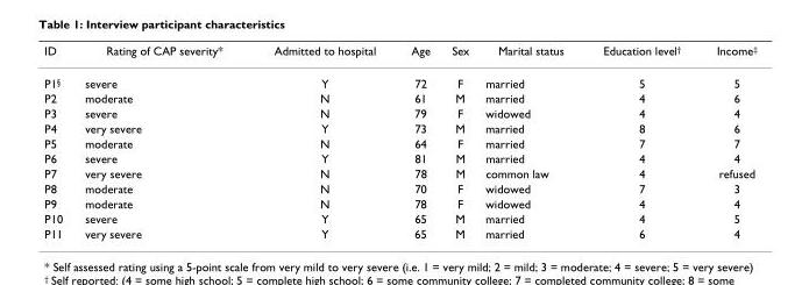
<table><thead><tr><td>ID</td><td>Rating of CAP severity*</td><td>Admitted to hospital</td><td>Age</td><td>Sex</td><td>Marital status</td><td>Education level<sup>†</sup></td><td>Income<sup>‡</sup></td></tr></thead><tbody><tr><td>P1<sup>§</sup></td><td>severe</td><td>Y</td><td>72</td><td>F</td><td>married</td><td>5</td><td>5</td></tr><tr><td>P2</td><td>moderate</td><td>N</td><td>61</td><td>M</td><td>married</td><td>4</td><td>6</td></tr><tr><td>P3</td><td>severe</td><td>N</td><td>79</td><td>F</td><td>widowed</td><td>4</td><td>4</td></tr><tr><td>P4</td><td>very severe</td><td>Y</td><td>73</td><td>M</td><td>married</td><td>8</td><td>6</td></tr><tr><td>P5</td><td>moderate</td><td>N</td><td>64</td><td>F</td><td>married</td><td>7</td><td>7</td></tr><tr><td>P6</td><td>severe</td><td>Y</td><td>81</td><td>M</td><td>married</td><td>4</td><td>4</td></tr><tr><td>P7</td><td>very severe</td><td>N</td><td>78</td><td>M</td><td>common law</td><td>4</td><td>refused</td></tr><tr><td>P8</td><td>moderate</td><td>N</td><td>70</td><td>F</td><td>widowed</td><td>7</td><td>3</td></tr><tr><td>P9</td><td>moderate</td><td>N</td><td>78</td><td>F</td><td>widowed</td><td>4</td><td>4</td></tr><tr><td>P10</td><td>severe</td><td>Y</td><td>65</td><td>M</td><td>married</td><td>4</td><td>5</td></tr><tr><td>P11</td><td>very severe</td><td>Y</td><td>65</td><td>M</td><td>married</td><td>6</td><td>4</td></tr></tbody></table>